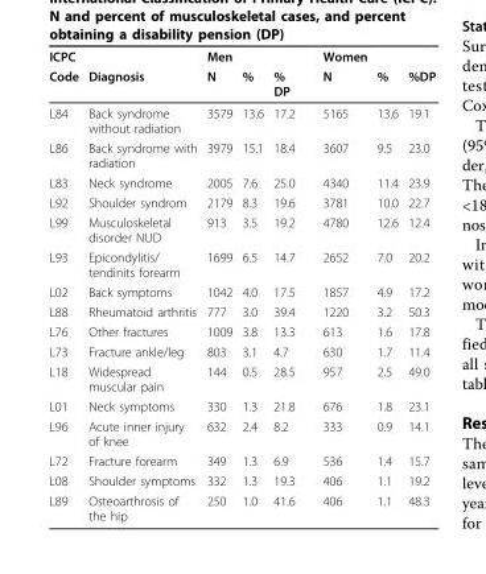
<table><thead><tr><td rowspan="2">ICPC Code</td><td rowspan="2">Diagnosis</td><td rowspan="2">Men N</td><td rowspan="2">%</td><td rowspan="2">% DP</td><td rowspan="2">Women N</td><td rowspan="2">%</td><td rowspan="2">%DP</td></tr><tr></tr></thead><tbody><tr><td>L84</td><td>Back syndrome without radiation</td><td>3579</td><td>13.6</td><td>17.2</td><td>5165</td><td>13.6</td><td>19.1</td></tr><tr><td>L86</td><td>Back syndrome with radiation</td><td>3979</td><td>15.1</td><td>18.4</td><td>3607</td><td>9.5</td><td>23.0</td></tr><tr><td>L83</td><td>Neck syndrome</td><td>2005</td><td>7.6</td><td>25.0</td><td>4340</td><td>11.4</td><td>23.9</td></tr><tr><td>L92</td><td>Shoulder syndrom</td><td>2179</td><td>8.3</td><td>19.6</td><td>3781</td><td>10.0</td><td>22.7</td></tr><tr><td>L99</td><td>Musculoskeletal disorder NUD</td><td>913</td><td>3.5</td><td>19.2</td><td>4780</td><td>12.6</td><td>12.4</td></tr><tr><td>L93</td><td>Epicondylitis/ tendinits forearm</td><td>1699</td><td>6.5</td><td>14.7</td><td>2652</td><td>7.0</td><td>20.2</td></tr><tr><td>L02</td><td>Back symptoms</td><td>1042</td><td>4.0</td><td>17.5</td><td>1857</td><td>4.9</td><td>17.2</td></tr><tr><td>L88</td><td>Rheumatoid arthritis</td><td>777</td><td>3.0</td><td>39.4</td><td>1220</td><td>3.2</td><td>50.3</td></tr><tr><td>L76</td><td>Other fractures</td><td>1009</td><td>3.8</td><td>13.3</td><td>613</td><td>1.6</td><td>17.8</td></tr><tr><td>L73</td><td>Fracture ankle/leg</td><td>803</td><td>3.1</td><td>4.7</td><td>630</td><td>1.7</td><td>11.4</td></tr><tr><td>L18</td><td>Widespread muscular pain</td><td>144</td><td>0.5</td><td>28.5</td><td>957</td><td>2.5</td><td>49.0</td></tr><tr><td>L01</td><td>Neck symptoms</td><td>330</td><td>1.3</td><td>21.8</td><td>676</td><td>1.8</td><td>23.1</td></tr><tr><td>L96</td><td>Acute inner injury of knee</td><td>632</td><td>2.4</td><td>8.2</td><td>333</td><td>0.9</td><td>14.1</td></tr><tr><td>L72</td><td>Fracture forearm</td><td>349</td><td>1.3</td><td>6.9</td><td>536</td><td>1.4</td><td>15.7</td></tr><tr><td>L08</td><td>Shoulder symptoms</td><td>332</td><td>1.3</td><td>19.3</td><td>406</td><td>1.1</td><td>19.2</td></tr><tr><td>L89</td><td>Osteoarthrosis of the hip</td><td>250</td><td>1.0</td><td>41.6</td><td>406</td><td>1.1</td><td>48.3</td></tr></tbody></table>